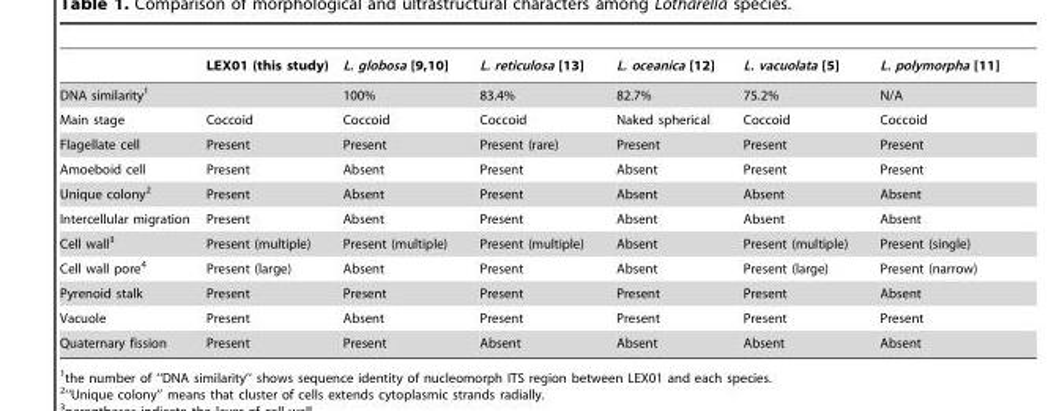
<table><thead><tr><td></td><td>LEX01 (this study)</td><td>L. globosa [9,10]</td><td>L. reticulosa [13]</td><td>L. oceanica [12]</td><td>L. vacuolata [5]</td><td>L. polymorpha [11]</td></tr></thead><tbody><tr><td>DNA similarity<sup>1</sup></td><td></td><td>100%</td><td>83.4%</td><td>82.7%</td><td>75.2%</td><td>N/A</td></tr><tr><td>Main stage</td><td>Coccoid</td><td>Coccoid</td><td>Coccoid</td><td>Naked spherical</td><td>Coccoid</td><td>Coccoid</td></tr><tr><td>Flagellate cell</td><td>Present</td><td>Present</td><td>Present (rare)</td><td>Present</td><td>Present</td><td>Present</td></tr><tr><td>Amoeboid cell</td><td>Present</td><td>Absent</td><td>Present</td><td>Absent</td><td>Present</td><td>Present</td></tr><tr><td>Unique colony<sup>2</sup></td><td>Present</td><td>Absent</td><td>Present</td><td>Absent</td><td>Absent</td><td>Absent</td></tr><tr><td>Intercellular migration</td><td>Present</td><td>Absent</td><td>Present</td><td>Absent</td><td>Absent</td><td>Absent</td></tr><tr><td>Cell wall<sup>3</sup></td><td>Present (multiple)</td><td>Present (multiple)</td><td>Present (multiple)</td><td>Absent</td><td>Present (multiple)</td><td>Present (single)</td></tr><tr><td>Cell wall pore<sup>4</sup></td><td>Present (large)</td><td>Absent</td><td>Present</td><td>Absent</td><td>Present (large)</td><td>Present (narrow)</td></tr><tr><td>Pyrenoid stalk</td><td>Present</td><td>Present</td><td>Present</td><td>Present</td><td>Present</td><td>Absent</td></tr><tr><td>Vacuole</td><td>Present</td><td>Absent</td><td>Present</td><td>Present</td><td>Present</td><td>Present</td></tr><tr><td>Quaternary fission</td><td>Present</td><td>Present</td><td>Absent</td><td>Absent</td><td>Absent</td><td>Absent</td></tr></tbody></table>